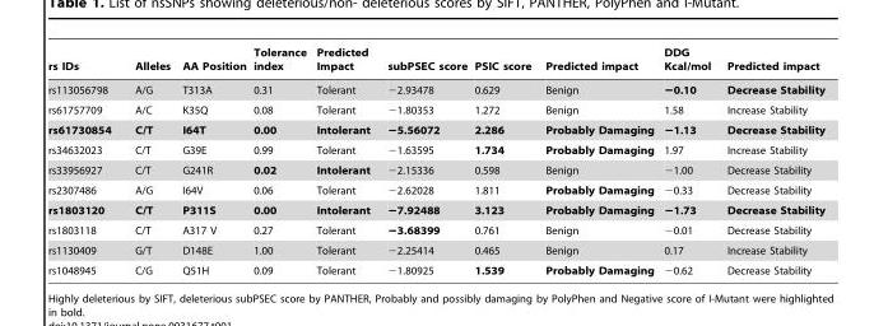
<table><thead><tr><td>rs IDs</td><td>Alleles</td><td>AA Position</td><td>Tolerance index</td><td>Predicted Impact</td><td>subPSEC score</td><td>PSIC score</td><td>Predicted impact</td><td>DDG Kcal/mol</td><td>Predicted impact</td></tr></thead><tbody><tr><td>rs113056798</td><td>A/G</td><td>T313A</td><td>0.31</td><td>Tolerant</td><td>−2.93478</td><td>0.629</td><td>Benign</td><td>−0.10</td><td>Decrease Stability</td></tr><tr><td>rs61757709</td><td>A/C</td><td>K35Q</td><td>0.08</td><td>Tolerant</td><td>−1.80353</td><td>1.272</td><td>Benign</td><td>1.58</td><td>Increase Stability</td></tr><tr><td>rs61730854</td><td>C/T</td><td>I64T</td><td>0.00</td><td>Intolerant</td><td>−5.56072</td><td>2.286</td><td>Probably Damaging</td><td>−1.13</td><td>Decrease Stability</td></tr><tr><td>rs34632023</td><td>C/T</td><td>G39E</td><td>0.99</td><td>Tolerant</td><td>−1.63595</td><td>1.734</td><td>Probably Damaging</td><td>1.97</td><td>Increase Stability</td></tr><tr><td>rs33956927</td><td>C/T</td><td>G241R</td><td>0.02</td><td>Intolerant</td><td>−2.15336</td><td>0.598</td><td>Benign</td><td>−1.00</td><td>Decrease Stability</td></tr><tr><td>rs2307486</td><td>A/G</td><td>I64V</td><td>0.06</td><td>Tolerant</td><td>−2.62028</td><td>1.811</td><td>Probably Damaging</td><td>−0.33</td><td>Decrease Stability</td></tr><tr><td>rs1803120</td><td>C/T</td><td>P311S</td><td>0.00</td><td>Intolerant</td><td>−7.92488</td><td>3.123</td><td>Probably Damaging</td><td>−1.73</td><td>Decrease Stability</td></tr><tr><td>rs1803118</td><td>C/T</td><td>A317 V</td><td>0.27</td><td>Tolerant</td><td>−3.68399</td><td>0.761</td><td>Benign</td><td>−0.01</td><td>Decrease Stability</td></tr><tr><td>rs1130409</td><td>G/T</td><td>D148E</td><td>1.00</td><td>Tolerant</td><td>−2.25414</td><td>0.465</td><td>Benign</td><td>0.17</td><td>Increase Stability</td></tr><tr><td>rs1048945</td><td>C/G</td><td>Q51H</td><td>0.09</td><td>Tolerant</td><td>−1.80925</td><td>1.539</td><td>Probably Damaging</td><td>−0.62</td><td>Decrease Stability</td></tr></tbody></table>